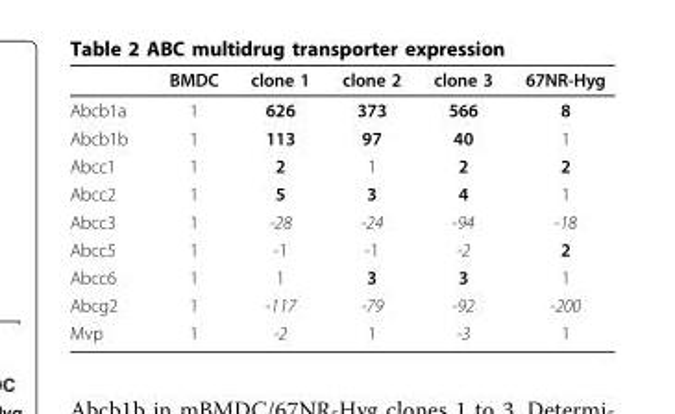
<table><thead><tr><td></td><td>BMDC</td><td>clone 1</td><td>clone 2</td><td>clone 3</td><td>67NR-Hyg</td></tr></thead><tbody><tr><td>Abcb1a</td><td>1</td><td>626</td><td>373</td><td>566</td><td>8</td></tr><tr><td>Abcb1b</td><td>1</td><td>113</td><td>97</td><td>40</td><td>1</td></tr><tr><td>Abcc1</td><td>1</td><td>2</td><td>1</td><td>2</td><td>2</td></tr><tr><td>Abcc2</td><td>1</td><td>5</td><td>3</td><td>4</td><td>1</td></tr><tr><td>Abcc3</td><td>1</td><td>-28</td><td>-24</td><td>-94</td><td>-18</td></tr><tr><td>Abcc5</td><td>1</td><td>-1</td><td>-1</td><td>-2</td><td>2</td></tr><tr><td>Abcc6</td><td>1</td><td>1</td><td>3</td><td>3</td><td>1</td></tr><tr><td>Abcg2</td><td>1</td><td>-117</td><td>-79</td><td>-92</td><td>-200</td></tr><tr><td>Mvp</td><td>1</td><td>-2</td><td>1</td><td>-3</td><td>1</td></tr></tbody></table>